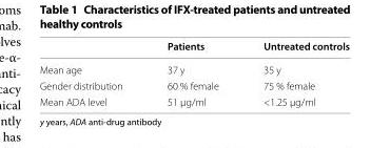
<table><thead><tr><td></td><td>Patients</td><td>Untreated controls</td></tr></thead><tbody><tr><td>Mean age</td><td>37 y</td><td>35 y</td></tr><tr><td>Gender distribution</td><td>60 % female</td><td>75 % female</td></tr><tr><td>Mean ADA level</td><td>51 µg/ml</td><td>&lt;1.25 µg/ml</td></tr></tbody></table>